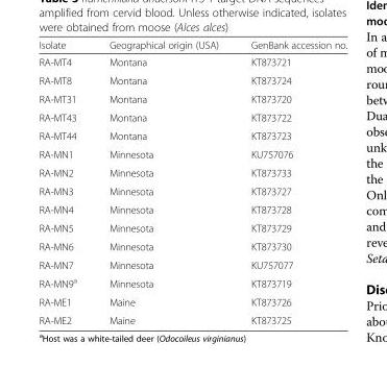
<table><thead><tr><td>Isolate</td><td>Geographical origin (USA)</td><td>GenBank accession no.</td></tr></thead><tbody><tr><td>RA-MT4</td><td>Montana</td><td>KT873721</td></tr><tr><td>RA-MT8</td><td>Montana</td><td>KT873724</td></tr><tr><td>RA-MT31</td><td>Montana</td><td>KT873720</td></tr><tr><td>RA-MT43</td><td>Montana</td><td>KT873722</td></tr><tr><td>RA-MT44</td><td>Montana</td><td>KT873723</td></tr><tr><td>RA-MN1</td><td>Minnesota</td><td>KU757076</td></tr><tr><td>RA-MN2</td><td>Minnesota</td><td>KT873733</td></tr><tr><td>RA-MN3</td><td>Minnesota</td><td>KT873727</td></tr><tr><td>RA-MN4</td><td>Minnesota</td><td>KT873728</td></tr><tr><td>RA-MN5</td><td>Minnesota</td><td>KT873729</td></tr><tr><td>RA-MN6</td><td>Minnesota</td><td>KT873730</td></tr><tr><td>RA-MN7</td><td>Minnesota</td><td>KU757077</td></tr><tr><td>RA-MN9<sup>a</sup></td><td>Minnesota</td><td>KT873719</td></tr><tr><td>RA-ME1</td><td>Maine</td><td>KT873726</td></tr><tr><td>RA-ME2</td><td>Maine</td><td>KT873725</td></tr></tbody></table>